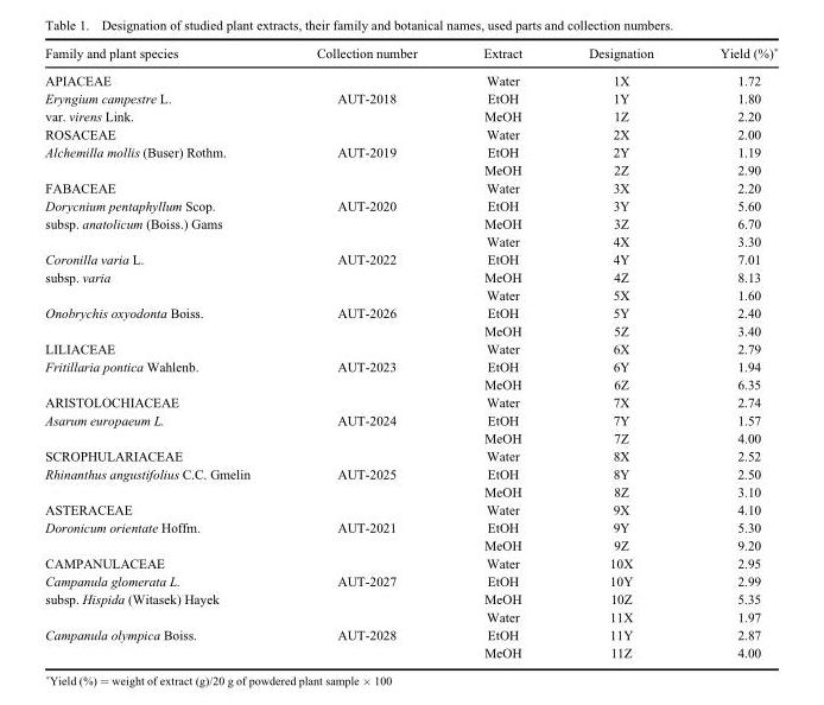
<table><thead><tr><td>Family and plant species</td><td>Collection number</td><td>Extract</td><td>Designation</td><td>Yield (%)*</td></tr></thead><tbody><tr><td>APIACEAE</td><td></td><td>Water</td><td>1X</td><td>1.72</td></tr><tr><td>Eryngium campestre L.</td><td>AUT-2018</td><td>EtOH</td><td>1Y</td><td>1.80</td></tr><tr><td>var. virens Link.</td><td></td><td>MeOH</td><td>1Z</td><td>2.20</td></tr><tr><td>ROSACEAE</td><td></td><td>Water</td><td>2X</td><td>2.00</td></tr><tr><td rowspan="2">Alchemilla mollis (Buser) Rothm.</td><td>AUT-2019</td><td>EtOH</td><td>2Y</td><td>1.19</td></tr><tr><td></td><td>MeOH</td><td>2Z</td><td>2.90</td></tr><tr><td>FABACEAE</td><td></td><td>Water</td><td>3X</td><td>2.20</td></tr><tr><td>Dorycnium pentaphyllum Scop.</td><td>AUT-2020</td><td>EtOH</td><td>3Y</td><td>5.60</td></tr><tr><td rowspan="2">subsp. anatolicum (Boiss.) Gams</td><td></td><td>MeOH</td><td>3Z</td><td>6.70</td></tr><tr><td></td><td>Water</td><td>4X</td><td>3.30</td></tr><tr><td>Coronilla varia L.</td><td>AUT-2022</td><td>EtOH</td><td>4Y</td><td>7.01</td></tr><tr><td rowspan="2">subsp. varia</td><td></td><td>MeOH</td><td>4Z</td><td>8.13</td></tr><tr><td></td><td>Water</td><td>5X</td><td>1.60</td></tr><tr><td rowspan="2">Onobrychis oxyodonta Boiss.</td><td>AUT-2026</td><td>EtOH</td><td>5Y</td><td>2.40</td></tr><tr><td></td><td>MeOH</td><td>5Z</td><td>3.40</td></tr><tr><td>LILIACEAE</td><td></td><td>Water</td><td>6X</td><td>2.79</td></tr><tr><td rowspan="2">Fritillaria pontica Wahlenb.</td><td>AUT-2023</td><td>EtOH</td><td>6Y</td><td>1.94</td></tr><tr><td></td><td>MeOH</td><td>6Z</td><td>6.35</td></tr><tr><td>ARISTOLOCHIACEAE</td><td></td><td>Water</td><td>7X</td><td>2.74</td></tr><tr><td rowspan="2">Asarum europaeum L.</td><td>AUT-2024</td><td>EtOH</td><td>7Y</td><td>1.57</td></tr><tr><td></td><td>MeOH</td><td>7Z</td><td>4.00</td></tr><tr><td>SCROPHULARIACEAE</td><td></td><td>Water</td><td>8X</td><td>2.52</td></tr><tr><td rowspan="2">Rhinanthus angustifolius C.C. Gmelin</td><td>AUT-2025</td><td>EtOH</td><td>8Y</td><td>2.50</td></tr><tr><td></td><td>MeOH</td><td>8Z</td><td>3.10</td></tr><tr><td>ASTERACEAE</td><td></td><td>Water</td><td>9X</td><td>4.10</td></tr><tr><td rowspan="2">Doronicum orientate Hoffm.</td><td>AUT-2021</td><td>EtOH</td><td>9Y</td><td>5.30</td></tr><tr><td></td><td>MeOH</td><td>9Z</td><td>9.20</td></tr><tr><td>CAMPANULACEAE</td><td></td><td>Water</td><td>10X</td><td>2.95</td></tr><tr><td>Campanula glomerata L.</td><td>AUT-2027</td><td>EtOH</td><td>10Y</td><td>2.99</td></tr><tr><td rowspan="2">subsp. Hispida (Witasek) Hayek</td><td></td><td>MeOH</td><td>10Z</td><td>5.35</td></tr><tr><td></td><td>Water</td><td>11X</td><td>1.97</td></tr><tr><td rowspan="2">Campanula olympica Boiss.</td><td>AUT-2028</td><td>EtOH</td><td>11Y</td><td>2.87</td></tr><tr><td></td><td>MeOH</td><td>11Z</td><td>4.00</td></tr></tbody></table>